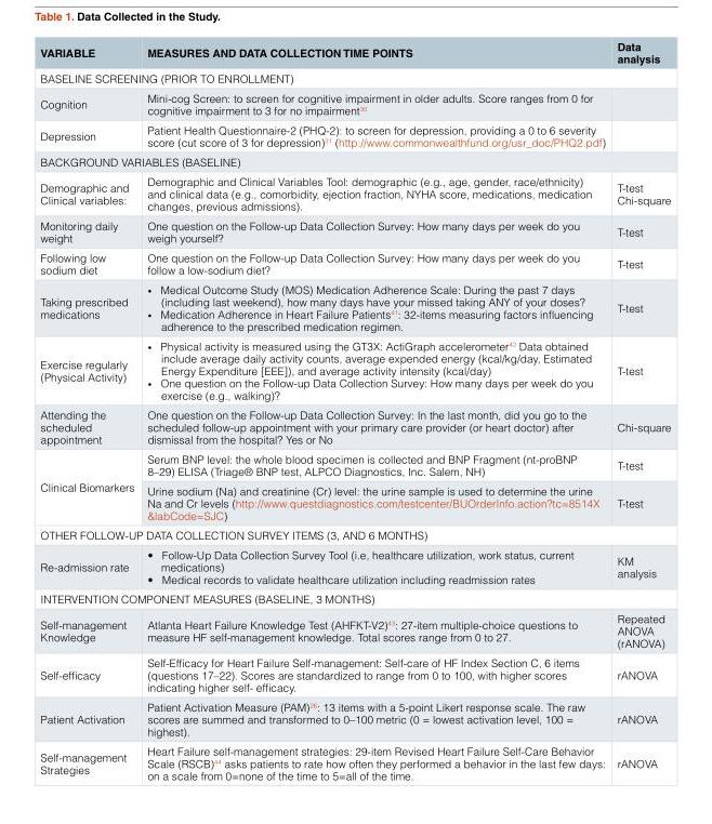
<table><thead><tr><td>VARIABLE</td><td>MEASURES AND DATA COLLECTION TIME POINTS</td><td>Data analysis</td></tr></thead><tbody><tr><td colspan="3">BASELINE SCREENING (PRIOR TO ENROLLMENT)</td></tr><tr><td>Cognition</td><td>Mini-cog Screen: to screen for cognitive impairment in older adults. Score ranges from 0 for cognitive impairment to 3 for no impairment<sup>30</sup></td><td></td></tr><tr><td>Depression</td><td>Patient Health Questionnaire-2 (PHQ-2): to screen for depression, providing a 0 to 6 severity score (cut score of 3 for depression)<sup>31</sup> (http://www.commonwealthfund.org/usr_doc/PHQ2.pdf)</td><td></td></tr><tr><td colspan="3">BACKGROUND VARIABLES (BASELINE)</td></tr><tr><td>Demographic and Clinical variables:</td><td>Demographic and Clinical Variables Tool: demographic (e.g., age, gender, race/ethnicity) and clinical data (e.g., comorbidity, ejection fraction, NYHA score, medications, medication changes, previous admissions).</td><td>T-test Chi-square</td></tr><tr><td>Monitoring daily weight</td><td>One question on the Follow-up Data Collection Survey: How many days per week do you weigh yourself?</td><td>T-test</td></tr><tr><td>Following low sodium diet</td><td>One question on the Follow-up Data Collection Survey: How many days per week do you follow a low-sodium diet?</td><td>T-test</td></tr><tr><td>Taking prescribed medications</td><td>• Medical Outcome Study (MOS) Medication Adherence Scale: During the past 7 days (including last weekend), how many days have your missed taking ANY of your doses? • Medication Adherence in Heart Failure Patients<sup>41</sup>: 32-items measuring factors influencing adherence to the prescribed medication regimen.</td><td>T-test</td></tr><tr><td>Exercise regularly (Physical Activity)</td><td>• Physical activity is measured using the GT3X: ActiGraph accelerometer<sup>42</sup> Data obtained include average daily activity counts, average expended energy (kcal/kg/day, Estimated Energy Expenditure [EEE]), and average activity intensity (kcal/day) • One question on the Follow-up Data Collection Survey: How many days per week do you exercise (e.g., walking)?</td><td>T-test</td></tr><tr><td>Attending the scheduled appointment</td><td>One question on the Follow-up Data Collection Survey: In the last month, did you go to the scheduled follow-up appointment with your primary care provider (or heart doctor) after dismissal from the hospital? Yes or No</td><td>Chi-square</td></tr><tr><td rowspan="2">Clinical Biomarkers</td><td>Serum BNP level: the whole blood specimen is collected and BNP Fragment (nt-proBNP 8–29) ELISA (Triage® BNP test, ALPCO Diagnostics, Inc. Salem, NH)</td><td>T-test</td></tr><tr><td>Urine sodium (Na) and creatinine (Cr) level: the urine sample is used to determine the urine Na and Cr levels (http://www.questdiagnostics.com/testcenter/BUOrderInfo.action?tc=8514X &amp;labCode=SJC)</td><td>T-test</td></tr><tr><td colspan="3">OTHER FOLLOW-UP DATA COLLECTION SURVEY ITEMS (3, AND 6 MONTHS)</td></tr><tr><td>Re-admission rate</td><td>• Follow-Up Data Collection Survey Tool (i.e, healthcare utilization, work status, current medications) • Medical records to validate healthcare utilization including readmission rates</td><td>KM analysis</td></tr><tr><td colspan="3">INTERVENTION COMPONENT MEASURES (BASELINE, 3 MONTHS)</td></tr><tr><td>Self-management Knowledge</td><td>Atlanta Heart Failure Knowledge Test (AHFKT-V2)<sup>43</sup>: 27-item multiple-choice questions to measure HF self-management knowledge. Total scores range from 0 to 27.</td><td>Repeated ANOVA (rANOVA)</td></tr><tr><td>Self-efficacy</td><td>Self-Efficacy for Heart Failure Self-management: Self-care of HF Index Section C, 6 items (questions 17–22). Scores are standardized to range from 0 to 100, with higher scores indicating higher self- efficacy.</td><td>rANOVA</td></tr><tr><td>Patient Activation</td><td>Patient Activation Measure (PAM)<sup>26</sup>: 13 items with a 5-point Likert response scale. The raw scores are summed and transformed to 0–100 metric (0 = lowest activation level, 100 = highest).</td><td>rANOVA</td></tr><tr><td>Self-management Strategies</td><td>Heart Failure self-management strategies: 29-item Revised Heart Failure Self-Care Behavior Scale (RSCB)<sup>44</sup> asks patients to rate how often they performed a behavior in the last few days: on a scale from 0=none of the time to 5=all of the time.</td><td>rANOVA</td></tr></tbody></table>